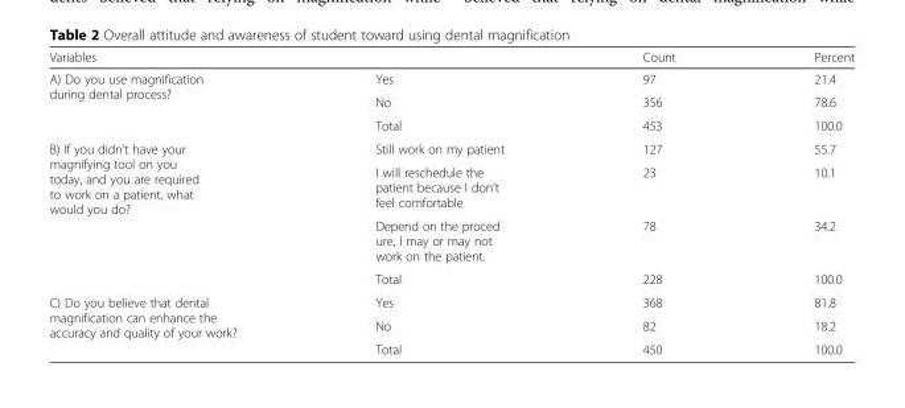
<table><thead><tr><td>Variables</td><td></td><td>Count</td><td>Percent</td></tr></thead><tbody><tr><td rowspan="3">A) Do you use magnification during dental process?</td><td>Yes</td><td>97</td><td>21.4</td></tr><tr><td>No</td><td>356</td><td>78.6</td></tr><tr><td>Total</td><td>453</td><td>100.0</td></tr><tr><td rowspan="4">B) If you didn’t have your magnifying tool on you today, and you are required to work on a patient, what would you do?</td><td>Still work on my patient</td><td>127</td><td>55.7</td></tr><tr><td>I will reschedule the patient because I don’t feel comfortable</td><td>23</td><td>10.1</td></tr><tr><td>Depend on the proced ure, I may or may not work on the patient.</td><td>78</td><td>34.2</td></tr><tr><td>Total</td><td>228</td><td>100.0</td></tr><tr><td rowspan="3">C) Do you believe that dental magnification can enhance the accuracy and quality of your work?</td><td>Yes</td><td>368</td><td>81.8</td></tr><tr><td>No</td><td>82</td><td>18.2</td></tr><tr><td>Total</td><td>450</td><td>100.0</td></tr></tbody></table>